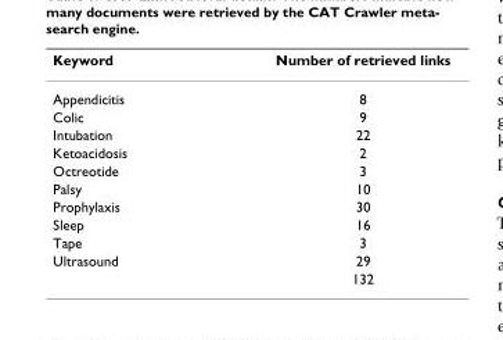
<table><thead><tr><td>Keyword</td><td>Number of retrieved links</td></tr></thead><tbody><tr><td>Appendicitis</td><td>8</td></tr><tr><td>Colic</td><td>9</td></tr><tr><td>Intubation</td><td>22</td></tr><tr><td>Ketoacidosis</td><td>2</td></tr><tr><td>Octreotide</td><td>3</td></tr><tr><td>Palsy</td><td>10</td></tr><tr><td>Prophylaxis</td><td>30</td></tr><tr><td>Sleep</td><td>16</td></tr><tr><td>Tape</td><td>3</td></tr><tr><td rowspan="2">Ultrasound</td><td>29</td></tr><tr><td>132</td></tr></tbody></table>